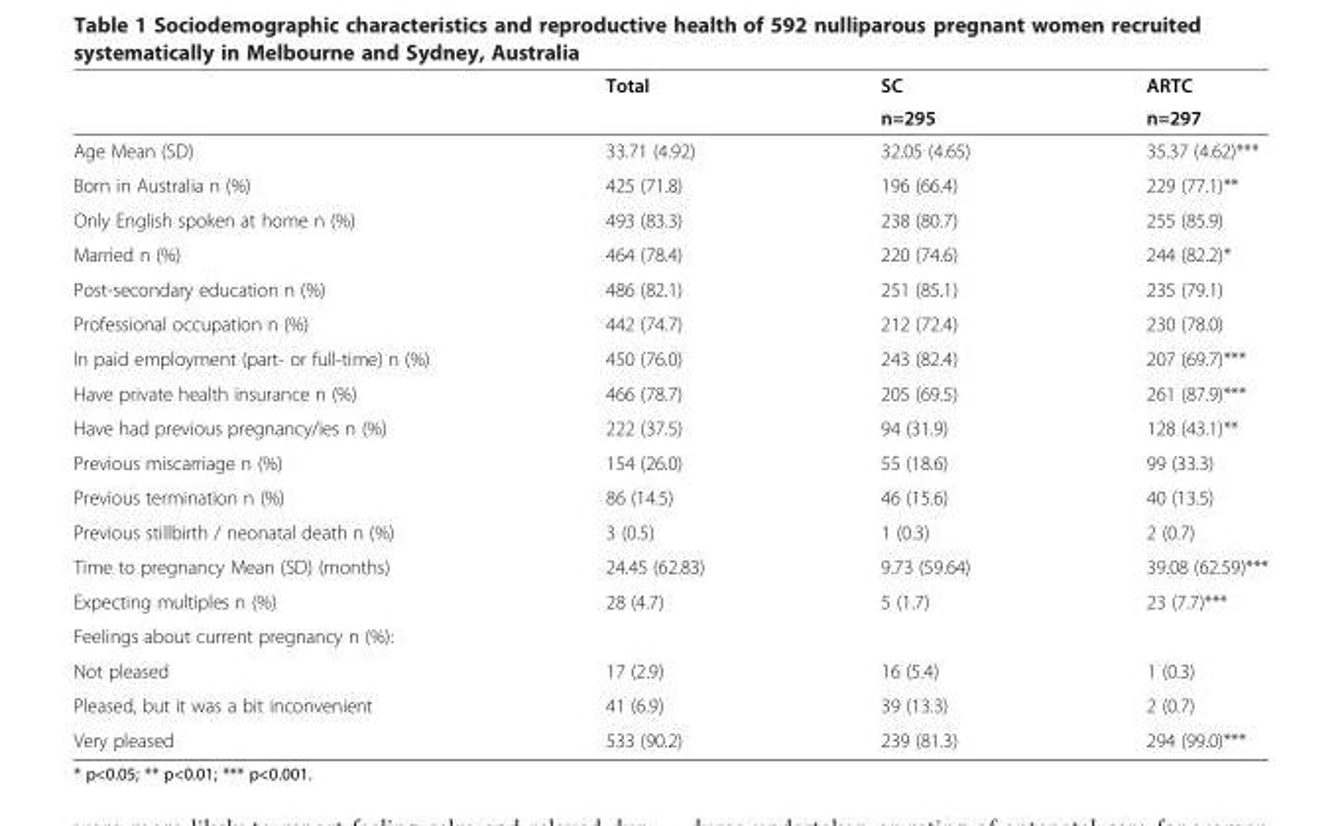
<table><thead><tr><td rowspan="2"></td><td rowspan="2">Total</td><td rowspan="2">SC n=295</td><td rowspan="2">ARTC n=297</td></tr><tr></tr></thead><tbody><tr><td>Age Mean (SD)</td><td>33.71 (4.92)</td><td>32.05 (4.65)</td><td>35.37 (4.62)***</td></tr><tr><td>Born in Australia n (%)</td><td>425 (71.8)</td><td>196 (66.4)</td><td>229 (77.1)**</td></tr><tr><td>Only English spoken at home n (%)</td><td>493 (83.3)</td><td>238 (80.7)</td><td>255 (85.9)</td></tr><tr><td>Married n (%)</td><td>464 (78.4)</td><td>220 (74.6)</td><td>244 (82.2)*</td></tr><tr><td>Post-secondary education n (%)</td><td>486 (82.1)</td><td>251 (85.1)</td><td>235 (79.1)</td></tr><tr><td>Professional occupation n (%)</td><td>442 (74.7)</td><td>212 (72.4)</td><td>230 (78.0)</td></tr><tr><td>In paid employment (part- or full-time) n (%)</td><td>450 (76.0)</td><td>243 (82.4)</td><td>207 (69.7)***</td></tr><tr><td>Have private health insurance n (%)</td><td>466 (78.7)</td><td>205 (69.5)</td><td>261 (87.9)***</td></tr><tr><td>Have had previous pregnancy/ies n (%)</td><td>222 (37.5)</td><td>94 (31.9)</td><td>128 (43.1)**</td></tr><tr><td>Previous miscarriage n (%)</td><td>154 (26.0)</td><td>55 (18.6)</td><td>99 (33.3)</td></tr><tr><td>Previous termination n (%)</td><td>86 (14.5)</td><td>46 (15.6)</td><td>40 (13.5)</td></tr><tr><td>Previous stillbirth / neonatal death n (%)</td><td>3 (0.5)</td><td>1 (0.3)</td><td>2 (0.7)</td></tr><tr><td>Time to pregnancy Mean (SD) (months)</td><td>24.45 (62.83)</td><td>9.73 (59.64)</td><td>39.08 (62.59)***</td></tr><tr><td>Expecting multiples n (%)</td><td>28 (4.7)</td><td>5 (1.7)</td><td>23 (7.7)***</td></tr><tr><td colspan="4">Feelings about current pregnancy n (%):</td></tr><tr><td>Not pleased</td><td>17 (2.9)</td><td>16 (5.4)</td><td>1 (0.3)</td></tr><tr><td>Pleased, but it was a bit inconvenient</td><td>41 (6.9)</td><td>39 (13.3)</td><td>2 (0.7)</td></tr><tr><td>Very pleased</td><td>533 (90.2)</td><td>239 (81.3)</td><td>294 (99.0)***</td></tr></tbody></table>